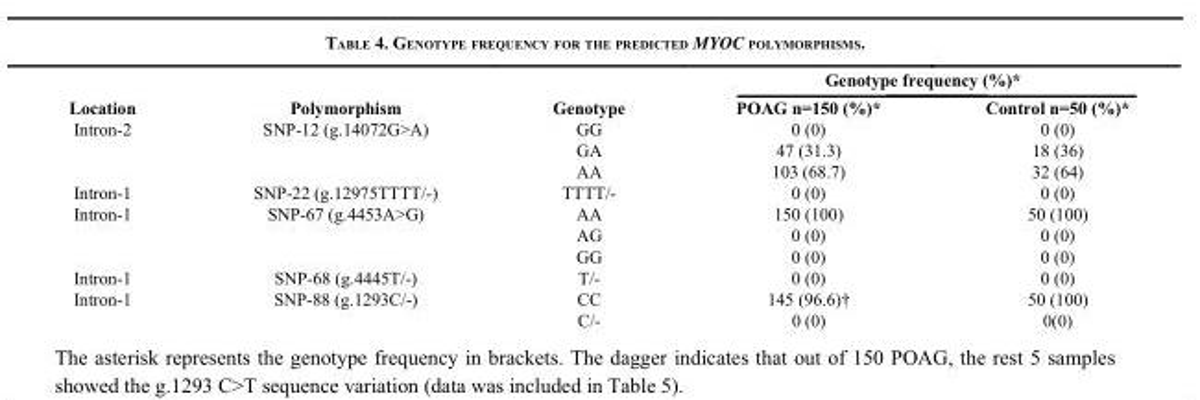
<table><thead><tr><td rowspan="2">Location</td><td rowspan="2">Polymorphism</td><td rowspan="2">Genotype</td><td colspan="2">Genotype frequency (%)*</td></tr><tr><td>POAG n=150 (%)*</td><td>Control n=50 (%)*</td></tr></thead><tbody><tr><td rowspan="3">Intron-2</td><td>SNP-12 (g.14072G&gt;A)</td><td>GG</td><td>0 (0)</td><td>0 (0)</td></tr><tr><td></td><td>GA</td><td>47 (31.3)</td><td>18 (36)</td></tr><tr><td></td><td>AA</td><td>103 (68.7)</td><td>32 (64)</td></tr><tr><td>Intron-1</td><td>SNP-22 (g.12975TTTT/-)</td><td>TTTT/-</td><td>0 (0)</td><td>0 (0)</td></tr><tr><td rowspan="3">Intron-1</td><td>SNP-67 (g.4453A&gt;G)</td><td>AA</td><td>150 (100)</td><td>50 (100)</td></tr><tr><td></td><td>AG</td><td>0 (0)</td><td>0 (0)</td></tr><tr><td></td><td>GG</td><td>0 (0)</td><td>0 (0)</td></tr><tr><td>Intron-1</td><td>SNP-68 (g.4445T/-)</td><td>T/-</td><td>0 (0)</td><td>0 (0)</td></tr><tr><td rowspan="2">Intron-1</td><td>SNP-88 (g.1293C/-)</td><td>CC</td><td>145 (96.6)†</td><td>50 (100)</td></tr><tr><td></td><td>C/-</td><td>0 (0)</td><td>0(0)</td></tr></tbody></table>